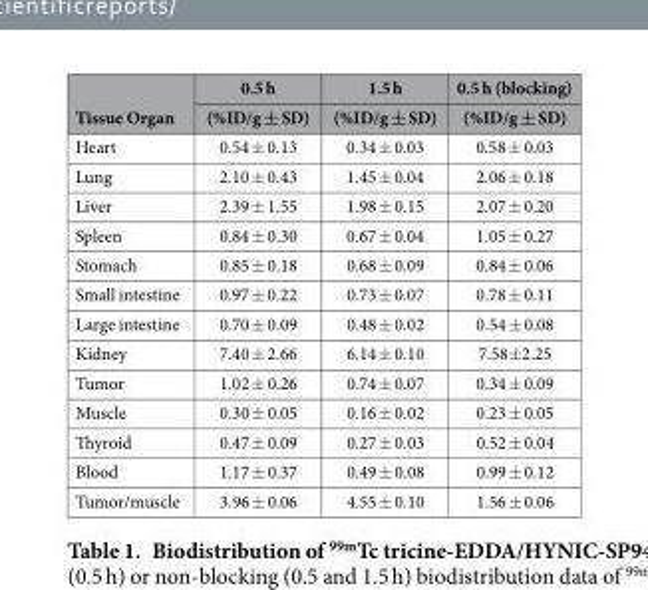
<table><thead><tr><td rowspan="2">Tissue Organ</td><td rowspan="2">0.5 h (%ID/g ± SD)</td><td rowspan="2">1.5 h (%ID/g ± SD)</td><td rowspan="2">0.5 h (blocking) (%ID/g ± SD)</td></tr><tr></tr></thead><tbody><tr><td>Heart</td><td>0.54 ± 0.13</td><td>0.34 ± 0.03</td><td>0.58 ± 0.03</td></tr><tr><td>Lung</td><td>2.10 ± 0.43</td><td>1.45 ± 0.04</td><td>2.06 ± 0.18</td></tr><tr><td>Liver</td><td>2.39 ± 1.55</td><td>1.98 ± 0.15</td><td>2.07 ± 0.20</td></tr><tr><td>Spleen</td><td>0.84 ± 0.30</td><td>0.67 ± 0.04</td><td>1.05 ± 0.27</td></tr><tr><td>Stomach</td><td>0.85 ± 0.18</td><td>0.68 ± 0.09</td><td>0.84 ± 0.06</td></tr><tr><td>Small intestine</td><td>0.97 ± 0.22</td><td>0.73 ± 0.07</td><td>0.78 ± 0.11</td></tr><tr><td>Large intestine</td><td>0.70 ± 0.09</td><td>0.48 ± 0.02</td><td>0.54 ± 0.08</td></tr><tr><td>Kidney</td><td>7.40 ± 2.66</td><td>6.14 ± 0.10</td><td>7.58± 2.25</td></tr><tr><td>Tumor</td><td>1.02 ± 0.26</td><td>0.74 ± 0.07</td><td>0.34 ± 0.09</td></tr><tr><td>Muscle</td><td>0.30 ± 0.05</td><td>0.16 ± 0.02</td><td>0.23 ± 0.05</td></tr><tr><td>Thyroid</td><td>0.47 ± 0.09</td><td>0.27 ± 0.03</td><td>0.52 ± 0.04</td></tr><tr><td>Blood</td><td>1.17 ± 0.37</td><td>0.49 ± 0.08</td><td>0.99 ± 0.12</td></tr><tr><td>Tumor/muscle</td><td>3.96 ± 0.06</td><td>4.55 ± 0.10</td><td>1.56 ± 0.06</td></tr></tbody></table>